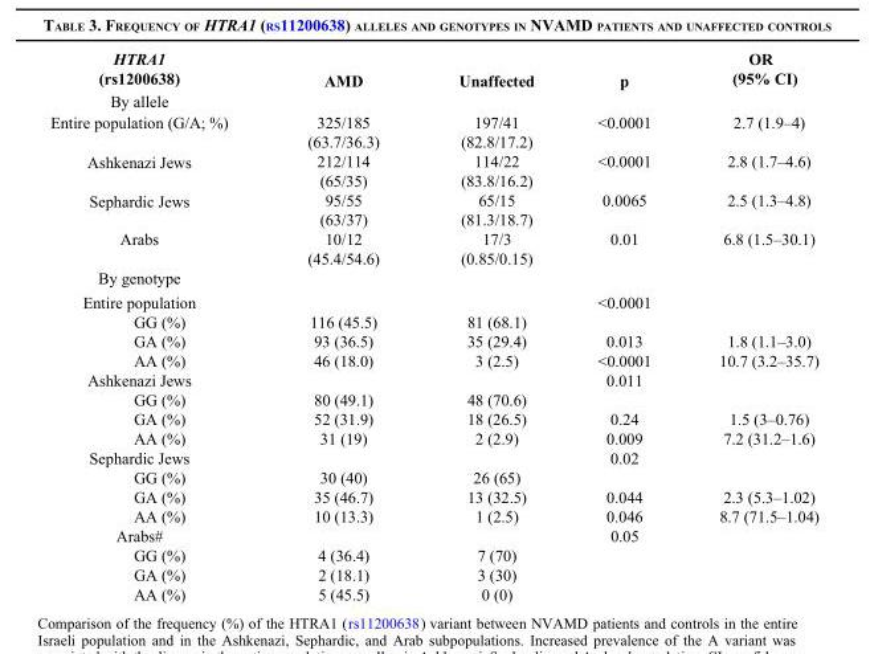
<table><thead><tr><td>HTRA1 (rs1200638)</td><td>AMD</td><td>Unaffected</td><td>p</td><td>OR (95% CI)</td></tr></thead><tbody><tr><td colspan="5">By allele</td></tr><tr><td>Entire population (G/A; %)</td><td>325/185 (63.7/36.3)</td><td>197/41 (82.8/17.2)</td><td>&lt;0.0001</td><td>2.7 (1.9–4)</td></tr><tr><td>Ashkenazi Jews</td><td>212/114 (65/35)</td><td>114/22 (83.8/16.2)</td><td>&lt;0.0001</td><td>2.8 (1.7–4.6)</td></tr><tr><td>Sephardic Jews</td><td>95/55 (63/37)</td><td>65/15 (81.3/18.7)</td><td>0.0065</td><td>2.5 (1.3–4.8)</td></tr><tr><td>Arabs</td><td>10/12 (45.4/54.6)</td><td>17/3 (0.85/0.15)</td><td>0.01</td><td>6.8 (1.5–30.1)</td></tr><tr><td colspan="5">By genotype</td></tr><tr><td>Entire population</td><td></td><td></td><td>&lt;0.0001</td><td></td></tr><tr><td>GG (%)</td><td>116 (45.5)</td><td>81 (68.1)</td><td></td><td></td></tr><tr><td>GA (%)</td><td>93 (36.5)</td><td>35 (29.4)</td><td>0.013</td><td>1.8 (1.1–3.0)</td></tr><tr><td>AA (%)</td><td>46 (18.0)</td><td>3 (2.5)</td><td>&lt;0.0001</td><td>10.7 (3.2–35.7)</td></tr><tr><td>Ashkenazi Jews</td><td></td><td></td><td>0.011</td><td></td></tr><tr><td>GG (%)</td><td>80 (49.1)</td><td>48 (70.6)</td><td></td><td></td></tr><tr><td>GA (%)</td><td>52 (31.9)</td><td>18 (26.5)</td><td>0.24</td><td>1.5 (3–0.76)</td></tr><tr><td>AA (%)</td><td>31 (19)</td><td>2 (2.9)</td><td>0.009</td><td>7.2 (31.2–1.6)</td></tr><tr><td>Sephardic Jews</td><td></td><td></td><td>0.02</td><td></td></tr><tr><td>GG (%)</td><td>30 (40)</td><td>26 (65)</td><td></td><td></td></tr><tr><td>GA (%)</td><td>35 (46.7)</td><td>13 (32.5)</td><td>0.044</td><td>2.3 (5.3–1.02)</td></tr><tr><td>AA (%)</td><td>10 (13.3)</td><td>1 (2.5)</td><td>0.046</td><td>8.7 (71.5–1.04)</td></tr><tr><td>Arabs#</td><td></td><td></td><td>0.05</td><td></td></tr><tr><td>GG (%)</td><td>4 (36.4)</td><td>7 (70)</td><td></td><td></td></tr><tr><td>GA (%)</td><td>2 (18.1)</td><td>3 (30)</td><td></td><td></td></tr><tr><td>AA (%)</td><td>5 (45.5)</td><td>0 (0)</td><td></td><td></td></tr></tbody></table>